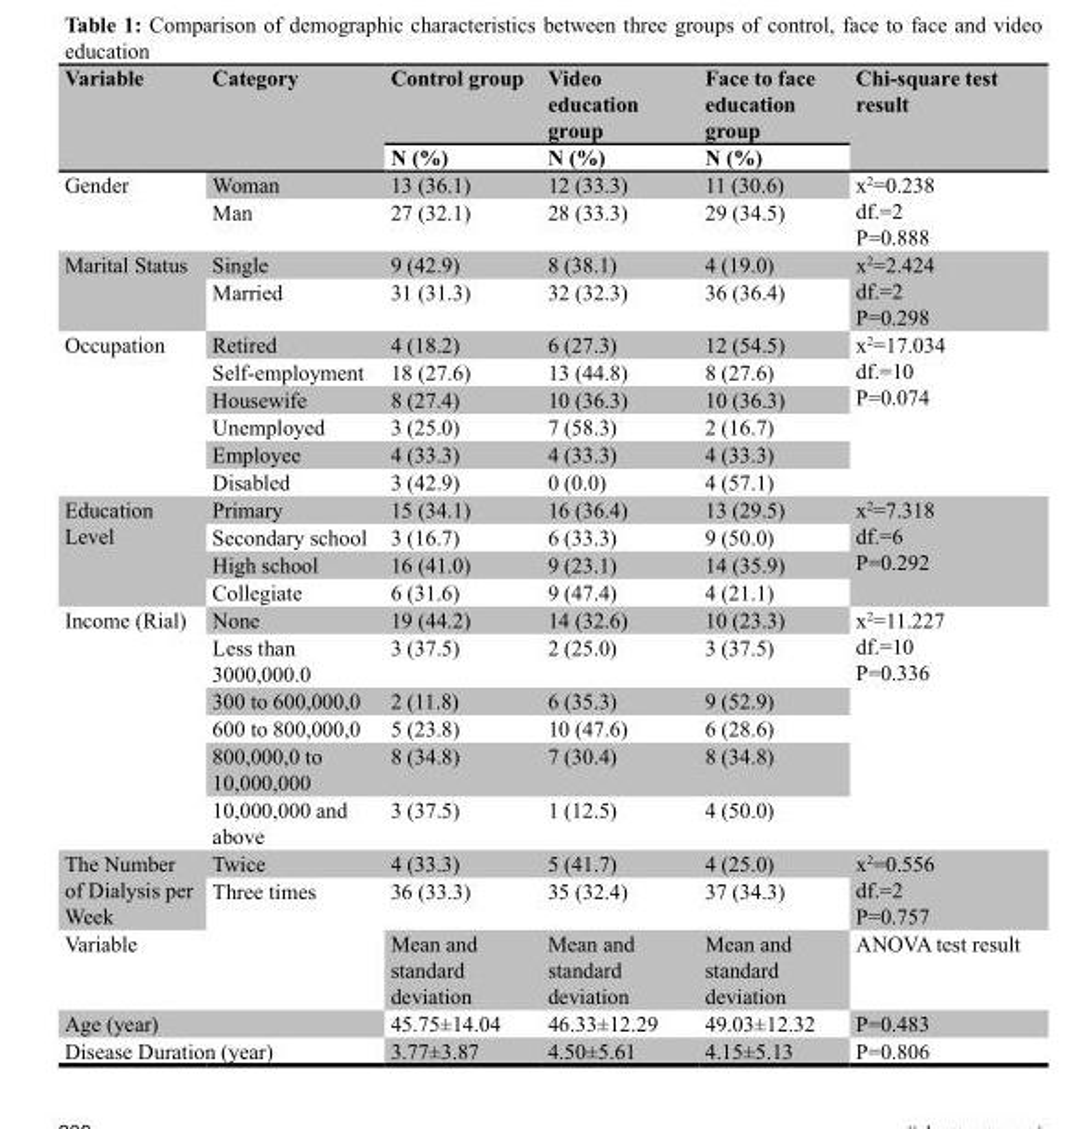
<table><thead><tr><td rowspan="2">Variable</td><td rowspan="2">Category</td><td rowspan="2">Control group N (%)</td><td rowspan="2">Video education group N (%)</td><td rowspan="2">Face to face education group N (%)</td><td rowspan="2">Chi-square test result</td></tr><tr></tr></thead><tbody><tr><td rowspan="2">Gender</td><td>Woman</td><td>13 (36.1)</td><td>12 (33.3)</td><td>11 (30.6)</td><td rowspan="2">x<sup>2</sup>=0.238 df.=2 P=0.888</td></tr><tr><td>Man</td><td>27 (32.1)</td><td>28 (33.3)</td><td>29 (34.5)</td></tr><tr><td rowspan="2">Marital Status</td><td>Single</td><td>9 (42.9)</td><td>8 (38.1)</td><td>4 (19.0)</td><td rowspan="2">x<sup>2</sup>=2.424 df.=2 P=0.298</td></tr><tr><td>Married</td><td>31 (31.3)</td><td>32 (32.3)</td><td>36 (36.4)</td></tr><tr><td rowspan="6">Occupation</td><td>Retired</td><td>4 (18.2)</td><td>6 (27.3)</td><td>12 (54.5)</td><td rowspan="6">x<sup>2</sup>=17.034 df.=10 P=0.074</td></tr><tr><td>Self-employment</td><td>18 (27.6)</td><td>13 (44.8)</td><td>8 (27.6)</td></tr><tr><td>Housewife</td><td>8 (27.4)</td><td>10 (36.3)</td><td>10 (36.3)</td></tr><tr><td>Unemployed</td><td>3 (25.0)</td><td>7 (58.3)</td><td>2 (16.7)</td></tr><tr><td>Employee</td><td>4 (33.3)</td><td>4 (33.3)</td><td>4 (33.3)</td></tr><tr><td>Disabled</td><td>3 (42.9)</td><td>0 (0.0)</td><td>4 (57.1)</td></tr><tr><td rowspan="4">Education Level</td><td>Primary</td><td>15 (34.1)</td><td>16 (36.4)</td><td>13 (29.5)</td><td rowspan="4">x<sup>2</sup>=7.318 df.=6 P=0.292</td></tr><tr><td>Secondary school</td><td>3 (16.7)</td><td>6 (33.3)</td><td>9 (50.0)</td></tr><tr><td>High school</td><td>16 (41.0)</td><td>9 (23.1)</td><td>14 (35.9)</td></tr><tr><td>Collegiate</td><td>6 (31.6)</td><td>9 (47.4)</td><td>4 (21.1)</td></tr><tr><td rowspan="6">Income (Rial)</td><td>None</td><td>19 (44.2)</td><td>14 (32.6)</td><td>10 (23.3)</td><td rowspan="6">x<sup>2</sup>=11.227 df.=10 P=0.336</td></tr><tr><td>Less than 3000,000.0</td><td>3 (37.5)</td><td>2 (25.0)</td><td>3 (37.5)</td></tr><tr><td>300 to 600,000,0</td><td>2 (11.8)</td><td>6 (35.3)</td><td>9 (52.9)</td></tr><tr><td>600 to 800,000,0</td><td>5 (23.8)</td><td>10 (47.6)</td><td>6 (28.6)</td></tr><tr><td>800,000,0 to 10,000,000</td><td>8 (34.8)</td><td>7 (30.4)</td><td>8 (34.8)</td></tr><tr><td>10,000,000 and above</td><td>3 (37.5)</td><td>1 (12.5)</td><td>4 (50.0)</td></tr><tr><td rowspan="2">The Number of Dialysis per Week</td><td>Twice</td><td>4 (33.3)</td><td>5 (41.7)</td><td>4 (25.0)</td><td rowspan="2">x<sup>2</sup>=0.556 df.=2 P=0.757</td></tr><tr><td>Three times</td><td>36 (33.3)</td><td>35 (32.4)</td><td>37 (34.3)</td></tr><tr><td colspan="2">Variable</td><td>Mean and standard deviation</td><td>Mean and standard deviation</td><td>Mean and standard deviation</td><td>ANOVA test result</td></tr><tr><td colspan="2">Age (year)</td><td>45.75±14.04</td><td>46.33±12.29</td><td>49.03±12.32</td><td>P=0.483</td></tr><tr><td colspan="2">Disease Duration (year)</td><td>3.77±3.87</td><td>4.50±5.61</td><td>4.15±5.13</td><td>P=0.806</td></tr></tbody></table>